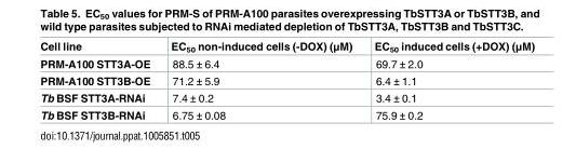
<table><thead><tr><td>Cell line</td><td>EC<sub>50</sub> non-induced cells (-DOX) (μM)</td><td>EC<sub>50</sub> induced cells (+DOX) (μM)</td></tr></thead><tbody><tr><td>PRM-A100 STT3A-OE</td><td>88.5 ± 6.4</td><td>69.7 ± 2.0</td></tr><tr><td>PRM-A100 STT3B-OE</td><td>71.2 ± 5.9</td><td>6.4 ± 1.1</td></tr><tr><td>Tb BSF STT3A-RNAi</td><td>7.4 ± 0.2</td><td>3.4 ± 0.1</td></tr><tr><td>Tb BSF STT3B-RNAi</td><td>6.75 ± 0.08</td><td>75.9 ± 0.2</td></tr></tbody></table>